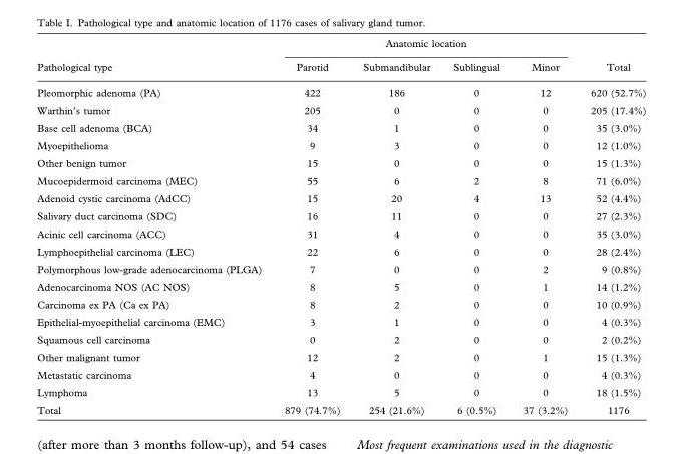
<table><thead><tr><td rowspan="2">Pathological type</td><td colspan="4">Anatomic location</td><td rowspan="2">Total</td></tr><tr><td>Parotid</td><td>Submandibular</td><td>Sublingual</td><td>Minor</td></tr></thead><tbody><tr><td>Pleomorphic adenoma (PA)</td><td>422</td><td>186</td><td>0</td><td>12</td><td>620 (52.7%)</td></tr><tr><td>Warthin’s tumor</td><td>205</td><td>0</td><td>0</td><td>0</td><td>205 (17.4%)</td></tr><tr><td>Base cell adenoma (BCA)</td><td>34</td><td>1</td><td>0</td><td>0</td><td>35 (3.0%)</td></tr><tr><td>Myoepithelioma</td><td>9</td><td>3</td><td>0</td><td>0</td><td>12 (1.0%)</td></tr><tr><td>Other benign tumor</td><td>15</td><td>0</td><td>0</td><td>0</td><td>15 (1.3%)</td></tr><tr><td>Mucoepidermoid carcinoma (MEC)</td><td>55</td><td>6</td><td>2</td><td>8</td><td>71 (6.0%)</td></tr><tr><td>Adenoid cystic carcinoma (AdCC)</td><td>15</td><td>20</td><td>4</td><td>13</td><td>52 (4.4%)</td></tr><tr><td>Salivary duct carcinoma (SDC)</td><td>16</td><td>11</td><td>0</td><td>0</td><td>27 (2.3%)</td></tr><tr><td>Acinic cell carcinoma (ACC)</td><td>31</td><td>4</td><td>0</td><td>0</td><td>35 (3.0%)</td></tr><tr><td>Lymphoepithelial carcinoma (LEC)</td><td>22</td><td>6</td><td>0</td><td>0</td><td>28 (2.4%)</td></tr><tr><td>Polymorphous low-grade adenocarcinoma (PLGA)</td><td>7</td><td>0</td><td>0</td><td>2</td><td>9 (0.8%)</td></tr><tr><td>Adenocarcinoma NOS (AC NOS)</td><td>8</td><td>5</td><td>0</td><td>1</td><td>14 (1.2%)</td></tr><tr><td>Carcinoma ex PA (Ca ex PA)</td><td>8</td><td>2</td><td>0</td><td>0</td><td>10 (0.9%)</td></tr><tr><td>Epithelial-myoepithelial carcinoma (EMC)</td><td>3</td><td>1</td><td>0</td><td>0</td><td>4 (0.3%)</td></tr><tr><td>Squamous cell carcinoma</td><td>0</td><td>2</td><td>0</td><td>0</td><td>2 (0.2%)</td></tr><tr><td>Other malignant tumor</td><td>12</td><td>2</td><td>0</td><td>1</td><td>15 (1.3%)</td></tr><tr><td>Metastatic carcinoma</td><td>4</td><td>0</td><td>0</td><td>0</td><td>4 (0.3%)</td></tr><tr><td>Lymphoma</td><td>13</td><td>5</td><td>0</td><td>0</td><td>18 (1.5%)</td></tr><tr><td>Total</td><td>879 (74.7%)</td><td>254 (21.6%)</td><td>6 (0.5%)</td><td>37 (3.2%)</td><td>1176</td></tr></tbody></table>